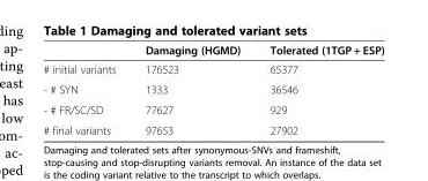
<table><thead><tr><td></td><td>Damaging (HGMD)</td><td>Tolerated (1TGP + ESP)</td></tr></thead><tbody><tr><td># initial variants</td><td>176523</td><td>65377</td></tr><tr><td>- # SYN</td><td>1333</td><td>36546</td></tr><tr><td>- # FR/SC/SD</td><td>77627</td><td>929</td></tr><tr><td># final variants</td><td>97653</td><td>27902</td></tr></tbody></table>